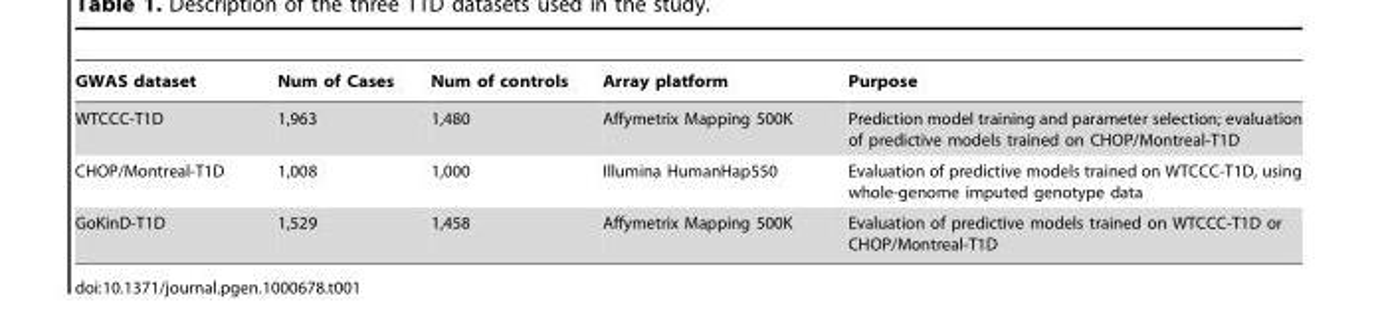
<table><thead><tr><td>GWAS dataset</td><td>Num of Cases</td><td>Num of controls</td><td>Array platform</td><td>Purpose</td></tr></thead><tbody><tr><td>WTCCC-T1D</td><td>1,963</td><td>1,480</td><td>Affymetrix Mapping 500K</td><td>Prediction model training and parameter selection; evaluation of predictive models trained on CHOP/Montreal-T1D</td></tr><tr><td>CHOP/Montreal-T1D</td><td>1,008</td><td>1,000</td><td>Illumina HumanHap550</td><td>Evaluation of predictive models trained on WTCCC-T1D, using whole-genome imputed genotype data</td></tr><tr><td>GoKinD-T1D</td><td>1,529</td><td>1,458</td><td>Affymetrix Mapping 500K</td><td>Evaluation of predictive models trained on WTCCC-T1D or CHOP/Montreal-T1D</td></tr></tbody></table>